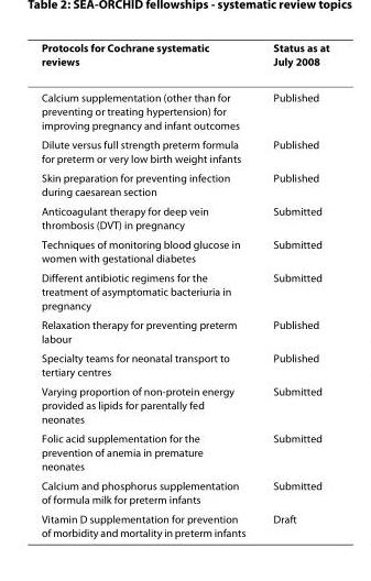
<table><thead><tr><td>Protocols for Cochrane systematic reviews</td><td>Status as at July 2008</td></tr></thead><tbody><tr><td>Calcium supplementation (other than for preventing or treating hypertension) for improving pregnancy and infant outcomes</td><td>Published</td></tr><tr><td>Dilute versus full strength preterm formula for preterm or very low birth weight infants</td><td>Published</td></tr><tr><td>Skin preparation for preventing infection during caesarean section</td><td>Published</td></tr><tr><td>Anticoagulant therapy for deep vein thrombosis (DVT) in pregnancy</td><td>Submitted</td></tr><tr><td>Techniques of monitoring blood glucose in women with gestational diabetes</td><td>Submitted</td></tr><tr><td>Different antibiotic regimens for the treatment of asymptomatic bacteriuria in pregnancy</td><td>Submitted</td></tr><tr><td>Relaxation therapy for preventing preterm labour</td><td>Published</td></tr><tr><td>Specialty teams for neonatal transport to tertiary centres</td><td>Published</td></tr><tr><td>Varying proportion of non-protein energy provided as lipids for parentally fed neonates</td><td>Submitted</td></tr><tr><td>Folic acid supplementation for the prevention of anemia in premature neonates</td><td>Submitted</td></tr><tr><td>Calcium and phosphorus supplementation of formula milk for preterm infants</td><td>Submitted</td></tr><tr><td>Vitamin D supplementation for prevention of morbidity and mortality in preterm infants</td><td>Draft</td></tr></tbody></table>